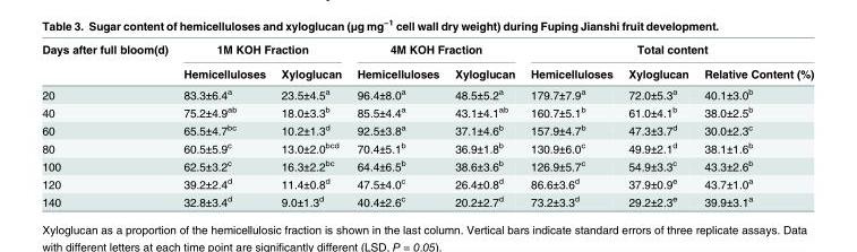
<table><thead><tr><td rowspan="2">Days after full bloom(d)</td><td colspan="2">1M KOH Fraction</td><td colspan="2">4M KOH Fraction</td><td colspan="3">Total content</td></tr><tr><td>Hemicelluloses</td><td>Xyloglucan</td><td>Hemicelluloses</td><td>Xyloglucan</td><td>Hemicelluloses</td><td>Xyloglucan</td><td>Relative Content (%)</td></tr></thead><tbody><tr><td>20</td><td>83.3±6.4<sup>a</sup></td><td>23.5±4.5<sup>a</sup></td><td>96.4±8.0<sup>a</sup></td><td>48.5±5.2<sup>a</sup></td><td>179.7±7.9<sup>a</sup></td><td>72.0±5.3<sup>a</sup></td><td>40.1±3.0<sup>b</sup></td></tr><tr><td>40</td><td>75.2±4.9<sup>ab</sup></td><td>18.0±3.3<sup>b</sup></td><td>85.5±4.4<sup>a</sup></td><td>43.1±4.1<sup>ab</sup></td><td>160.7±5.1<sup>b</sup></td><td>61.0±4.1<sup>b</sup></td><td>38.0±2.5<sup>b</sup></td></tr><tr><td>60</td><td>65.5±4.7<sup>bc</sup></td><td>10.2±1.3<sup>d</sup></td><td>92.5±3.8<sup>a</sup></td><td>37.1±4.6<sup>b</sup></td><td>157.9±4.7<sup>b</sup></td><td>47.3±3.7<sup>d</sup></td><td>30.0±2.3<sup>c</sup></td></tr><tr><td>80</td><td>60.5±5.9<sup>c</sup></td><td>13.0±2.0<sup>bcd</sup></td><td>70.4±5.1<sup>b</sup></td><td>36.9±1.8<sup>b</sup></td><td>130.9±6.0<sup>c</sup></td><td>49.9±2.1<sup>d</sup></td><td>38.1±1.6<sup>b</sup></td></tr><tr><td>100</td><td>62.5±3.2<sup>c</sup></td><td>16.3±2.2<sup>bc</sup></td><td>64.4±6.5<sup>b</sup></td><td>38.6±3.6<sup>b</sup></td><td>126.9±5.7<sup>c</sup></td><td>54.9±3.3<sup>c</sup></td><td>43.3±2.6<sup>b</sup></td></tr><tr><td>120</td><td>39.2±2.4<sup>d</sup></td><td>11.4±0.8<sup>d</sup></td><td>47.5±4.0<sup>c</sup></td><td>26.4±0.8<sup>d</sup></td><td>86.6±3.6<sup>d</sup></td><td>37.9±0.9<sup>e</sup></td><td>43.7±1.0<sup>a</sup></td></tr><tr><td>140</td><td>32.8±3.4<sup>d</sup></td><td>9.0±1.3<sup>d</sup></td><td>40.4±2.6<sup>c</sup></td><td>20.2±2.7<sup>d</sup></td><td>73.2±3.3<sup>d</sup></td><td>29.2±2.3<sup>e</sup></td><td>39.9±3.1<sup>a</sup></td></tr></tbody></table>